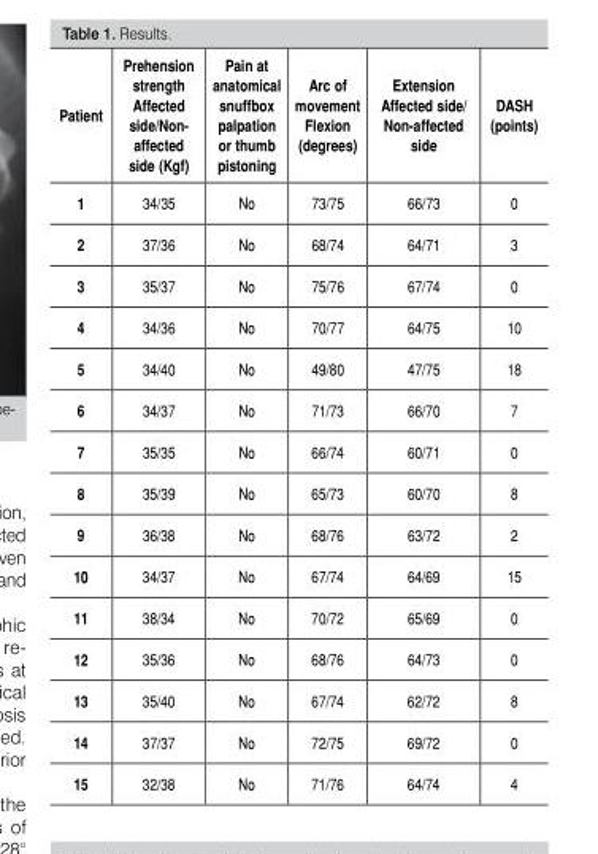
<table><tbody><tr><td>Patient</td><td>Prehension strength Affected side/Non- affected side (Kgf)</td><td>Pain at anatomical snuffbox palpation or thumb pistoning</td><td>Arc of movement Flexion (degrees)</td><td>Extension Affected side/ Non-affected side</td><td>DASH (points)</td></tr><tr><td>1</td><td>34/35</td><td>No</td><td>73/75</td><td>66/73</td><td>0</td></tr><tr><td>2</td><td>37/36</td><td>No</td><td>68/74</td><td>64/71</td><td>3</td></tr><tr><td>3</td><td>35/37</td><td>No</td><td>75/76</td><td>67/74</td><td>0</td></tr><tr><td>4</td><td>34/36</td><td>No</td><td>70/77</td><td>64/75</td><td>10</td></tr><tr><td>5</td><td>34/40</td><td>No</td><td>49/80</td><td>47/75</td><td>18</td></tr><tr><td>6</td><td>34/37</td><td>No</td><td>71/73</td><td>66/70</td><td>7</td></tr><tr><td>7</td><td>35/35</td><td>No</td><td>66/74</td><td>60/71</td><td>0</td></tr><tr><td>8</td><td>35/39</td><td>No</td><td>65/73</td><td>60/70</td><td>8</td></tr><tr><td>9</td><td>36/38</td><td>No</td><td>68/76</td><td>63/72</td><td>2</td></tr><tr><td>10</td><td>34/37</td><td>No</td><td>67/74</td><td>64/69</td><td>15</td></tr><tr><td>11</td><td>38/34</td><td>No</td><td>70/72</td><td>65/69</td><td>0</td></tr><tr><td>12</td><td>35/36</td><td>No</td><td>68/76</td><td>64/73</td><td>0</td></tr><tr><td>13</td><td>35/40</td><td>No</td><td>67/74</td><td>62/72</td><td>8</td></tr><tr><td>14</td><td>37/37</td><td>No</td><td>72/75</td><td>69/72</td><td>0</td></tr><tr><td>15</td><td>32/38</td><td>No</td><td>71/76</td><td>64/74</td><td>4</td></tr></tbody></table>